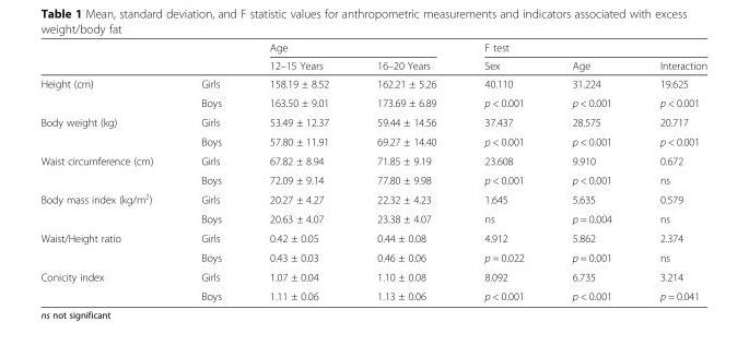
<table><thead><tr><td rowspan="2"></td><td rowspan="2"></td><td colspan="2">Age</td><td colspan="3">F test</td></tr><tr><td>12–15 Years</td><td>16–20 Years</td><td>Sex</td><td>Age</td><td>Interaction</td></tr></thead><tbody><tr><td rowspan="2">Height (cm)</td><td>Girls</td><td>158.19 ± 8.52</td><td>162.21 ± 5.26</td><td>40.110</td><td>31.224</td><td>19.625</td></tr><tr><td>Boys</td><td>163.50 ± 9.01</td><td>173.69 ± 6.89</td><td>p &lt; 0.001</td><td>p &lt; 0.001</td><td>p &lt; 0.001</td></tr><tr><td rowspan="2">Body weight (kg)</td><td>Girls</td><td>53.49 ± 12.37</td><td>59.44 ± 14.56</td><td>37.437</td><td>28.575</td><td>20.717</td></tr><tr><td>Boys</td><td>57.80 ± 11.91</td><td>69.27 ± 14.40</td><td>p &lt; 0.001</td><td>p &lt; 0.001</td><td>p &lt; 0.001</td></tr><tr><td rowspan="2">Waist circumference (cm)</td><td>Girls</td><td>67.82 ± 8.94</td><td>71.85 ± 9.19</td><td>23.608</td><td>9.910</td><td>0.672</td></tr><tr><td>Boys</td><td>72.09 ± 9.14</td><td>77.80 ± 9.98</td><td>p &lt; 0.001</td><td>p &lt; 0.001</td><td>ns</td></tr><tr><td rowspan="2">Body mass index (kg/m<sup>2</sup>)</td><td>Girls</td><td>20.27 ± 4.27</td><td>22.32 ± 4.23</td><td>1.645</td><td>5.635</td><td>0.579</td></tr><tr><td>Boys</td><td>20.63 ± 4.07</td><td>23.38 ± 4.07</td><td>ns</td><td>p = 0.004</td><td>ns</td></tr><tr><td rowspan="2">Waist/Height ratio</td><td>Girls</td><td>0.42 ± 0.05</td><td>0.44 ± 0.08</td><td>4.912</td><td>5.862</td><td>2.374</td></tr><tr><td>Boys</td><td>0.43 ± 0.03</td><td>0.46 ± 0.06</td><td>p = 0.022</td><td>p = 0.001</td><td>ns</td></tr><tr><td rowspan="2">Conicity index</td><td>Girls</td><td>1.07 ± 0.04</td><td>1.10 ± 0.08</td><td>8.092</td><td>6.735</td><td>3.214</td></tr><tr><td>Boys</td><td>1.11 ± 0.06</td><td>1.13 ± 0.06</td><td>p &lt; 0.001</td><td>p &lt; 0.001</td><td>p = 0.041</td></tr></tbody></table>